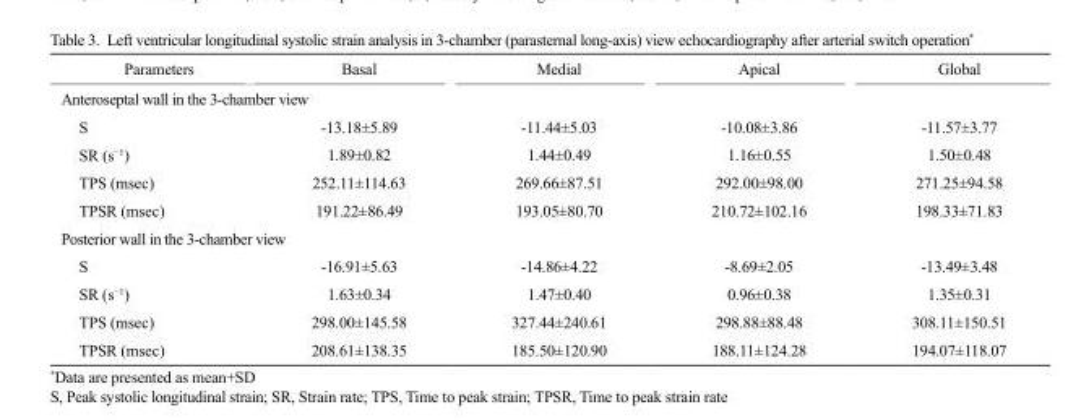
<table><thead><tr><td>Parameters</td><td>Basal</td><td>Medial</td><td>Apical</td><td>Global</td></tr></thead><tbody><tr><td colspan="5">Anteroseptal wall in the 3-chamber view</td></tr><tr><td>S</td><td>-13.18±5.89</td><td>-11.44±5.03</td><td>-10.08±3.86</td><td>-11.57±3.77</td></tr><tr><td>SR (s<sup>−1</sup>)</td><td>1.89±0.82</td><td>1.44±0.49</td><td>1.16±0.55</td><td>1.50±0.48</td></tr><tr><td>TPS (msec)</td><td>252.11±114.63</td><td>269.66±87.51</td><td>292.00±98.00</td><td>271.25±94.58</td></tr><tr><td>TPSR (msec)</td><td>191.22±86.49</td><td>193.05±80.70</td><td>210.72±102.16</td><td>198.33±71.83</td></tr><tr><td colspan="5">Posterior wall in the 3-chamber view</td></tr><tr><td>S</td><td>-16.91±5.63</td><td>-14.86±4.22</td><td>-8.69±2.05</td><td>-13.49±3.48</td></tr><tr><td>SR (s<sup>−1</sup>)</td><td>1.63±0.34</td><td>1.47±0.40</td><td>0.96±0.38</td><td>1.35±0.31</td></tr><tr><td>TPS (msec)</td><td>298.00±145.58</td><td>327.44±240.61</td><td>298.88±88.48</td><td>308.11±150.51</td></tr><tr><td>TPSR (msec)</td><td>208.61±138.35</td><td>185.50±120.90</td><td>188.11±124.28</td><td>194.07±118.07</td></tr></tbody></table>